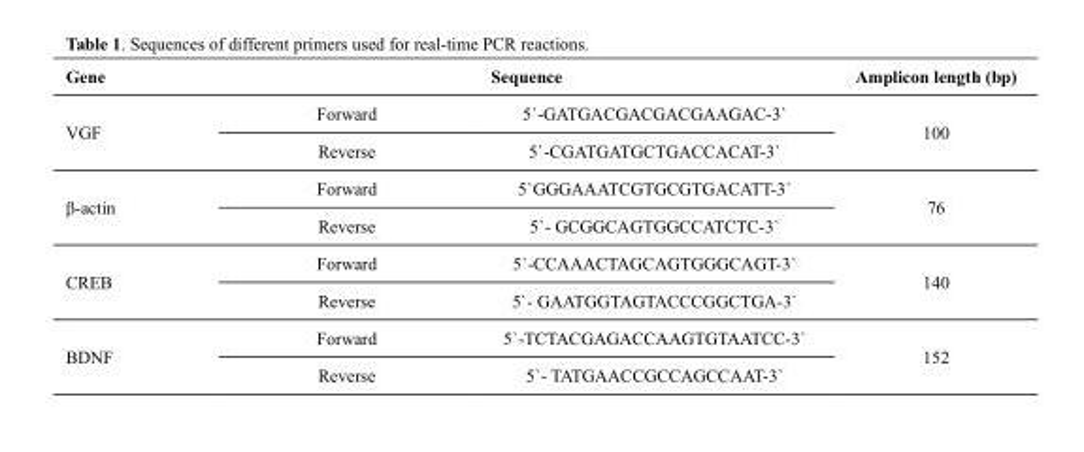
<table><thead><tr><td rowspan="2">Gene VGF</td><td colspan="2">Sequence</td><td rowspan="2">Amplicon length (bp) 100</td></tr><tr><td>Forward Reverse</td><td>5`-GATGACGACGACGAAGAC-3` 5`-CGATGATGCTGACCACAT-3`</td></tr></thead><tbody><tr><td>β-actin</td><td>Forward Reverse</td><td>5`GGGAAATCGTGCGTGACATT-3` 5`- GCGGCAGTGGCCATCTC-3`</td><td>76</td></tr><tr><td>CREB</td><td>Forward Reverse</td><td>5`-CCAAACTAGCAGTGGGCAGT-3` 5`- GAATGGTAGTACCCGGCTGA-3`</td><td>140</td></tr><tr><td>BDNF</td><td>Forward Reverse</td><td>5`-TCTACGAGACCAAGTGTAATCC-3` 5`- TATGAACCGCCAGCCAAT-3`</td><td>152</td></tr></tbody></table>